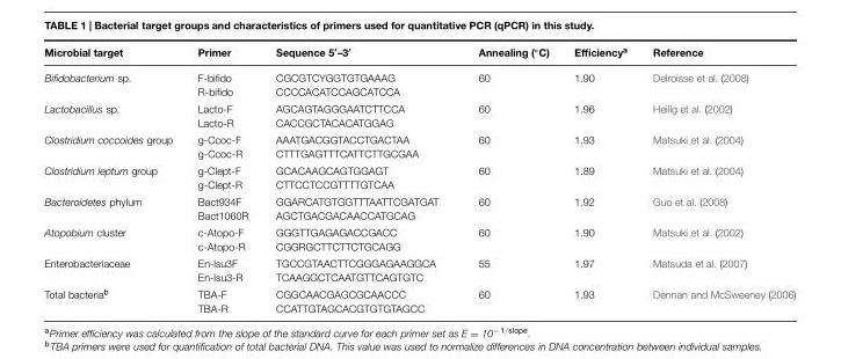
<table><thead><tr><td>Microbial target</td><td>Primer</td><td>Sequence 5′–3′</td><td>Annealing (◦C)</td><td>Efficiency<sup>a</sup></td><td>Reference</td></tr></thead><tbody><tr><td>Bifidobacterium sp.</td><td>F-bifido R-bifido</td><td>CGCGTCYGGTGTGAAAG CCCCACATCCAGCATCCA</td><td>60</td><td>1.90</td><td>Delroisse et al. (2008)</td></tr><tr><td>Lactobacillus sp.</td><td>Lacto-F Lacto-R</td><td>AGCAGTAGGGAATCTTCCA CACCGCTACACATGGAG</td><td>60</td><td>1.96</td><td>Heilig et al. (2002)</td></tr><tr><td>Clostridium coccoides group</td><td>g-Ccoc-F g-Ccoc-R</td><td>AAATGACGGTACCTGACTAA CTTTGAGTTTCATTCTTGCGAA</td><td>60</td><td>1.93</td><td>Matsuki et al. (2004)</td></tr><tr><td>Clostridium leptum group</td><td>g-Clept-F g-Clept-R</td><td>GCACAAGCAGTGGAGT CTTCCTCCGTTTTGTCAA</td><td>60</td><td>1.89</td><td>Matsuki et al. (2004)</td></tr><tr><td>Bacteroidetes phylum</td><td>Bact934F Bact1060R</td><td>GGARCATGTGGTTTAATTCGATGAT AGCTGACGACAACCATGCAG</td><td>60</td><td>1.92</td><td>Guo et al. (2008)</td></tr><tr><td>Atopobium cluster</td><td>c-Atopo-F c-Atopo-R</td><td>GGGTTGAGAGACCGACC CGGRGCTTCTTCTGCAGG</td><td>60</td><td>1.90</td><td>Matsuki et al. (2002)</td></tr><tr><td>Enterobacteriaceae</td><td>En-lsu3F En-lsu3-R</td><td>TGCCGTAACTTCGGGAGAAGGCA TCAAGGCTCAATGTTCAGTGTC</td><td>55</td><td>1.97</td><td>Matsuda et al. (2007)</td></tr><tr><td>Total bacteria<sup>b</sup></td><td>TBA-F TBA-R</td><td>CGGCAACGAGCGCAACCC CCATTGTAGCACGTGTGTAGCC</td><td>60</td><td>1.93</td><td>Dennan and McSweeney (2006)</td></tr></tbody></table>